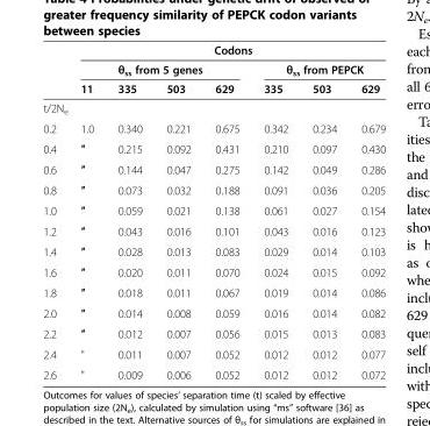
<table><thead><tr><td rowspan="3"></td><td></td><td></td><td></td><td>Codons</td><td></td><td></td><td></td></tr><tr><td colspan="4">θ<sub>ss</sub> from 5 genes</td><td colspan="3">θ<sub>ss</sub> from PEPCK</td></tr><tr><td>11</td><td>335</td><td>503</td><td>629</td><td>335</td><td>503</td><td>629</td></tr></thead><tbody><tr><td colspan="8">t/2N<sub>e</sub></td></tr><tr><td>0.2</td><td>1.0</td><td>0.340</td><td>0.221</td><td>0.675</td><td>0.342</td><td>0.234</td><td>0.679</td></tr><tr><td>0.4</td><td>″</td><td>0.215</td><td>0.092</td><td>0.431</td><td>0.210</td><td>0.097</td><td>0.430</td></tr><tr><td>0.6</td><td>″</td><td>0.144</td><td>0.047</td><td>0.275</td><td>0.142</td><td>0.049</td><td>0.286</td></tr><tr><td>0.8</td><td>″</td><td>0.073</td><td>0.032</td><td>0.188</td><td>0.091</td><td>0.036</td><td>0.205</td></tr><tr><td>1.0</td><td>″</td><td>0.059</td><td>0.021</td><td>0.138</td><td>0.061</td><td>0.027</td><td>0.154</td></tr><tr><td>1.2</td><td>″</td><td>0.043</td><td>0.016</td><td>0.101</td><td>0.043</td><td>0.016</td><td>0.123</td></tr><tr><td>1.4</td><td>″</td><td>0.028</td><td>0.013</td><td>0.083</td><td>0.029</td><td>0.014</td><td>0.103</td></tr><tr><td>1.6</td><td>″</td><td>0.020</td><td>0.011</td><td>0.070</td><td>0.024</td><td>0.015</td><td>0.092</td></tr><tr><td>1.8</td><td>″</td><td>0.018</td><td>0.011</td><td>0.067</td><td>0.019</td><td>0.014</td><td>0.086</td></tr><tr><td>2.0</td><td>″</td><td>0.014</td><td>0.008</td><td>0.059</td><td>0.016</td><td>0.014</td><td>0.082</td></tr><tr><td>2.2</td><td>″</td><td>0.012</td><td>0.007</td><td>0.056</td><td>0.015</td><td>0.013</td><td>0.083</td></tr><tr><td>2.4</td><td>&quot;</td><td>0.011</td><td>0.007</td><td>0.052</td><td>0.012</td><td>0.012</td><td>0.077</td></tr><tr><td>2.6</td><td>&quot;</td><td>0.009</td><td>0.006</td><td>0.052</td><td>0.012</td><td>0.012</td><td>0.072</td></tr></tbody></table>